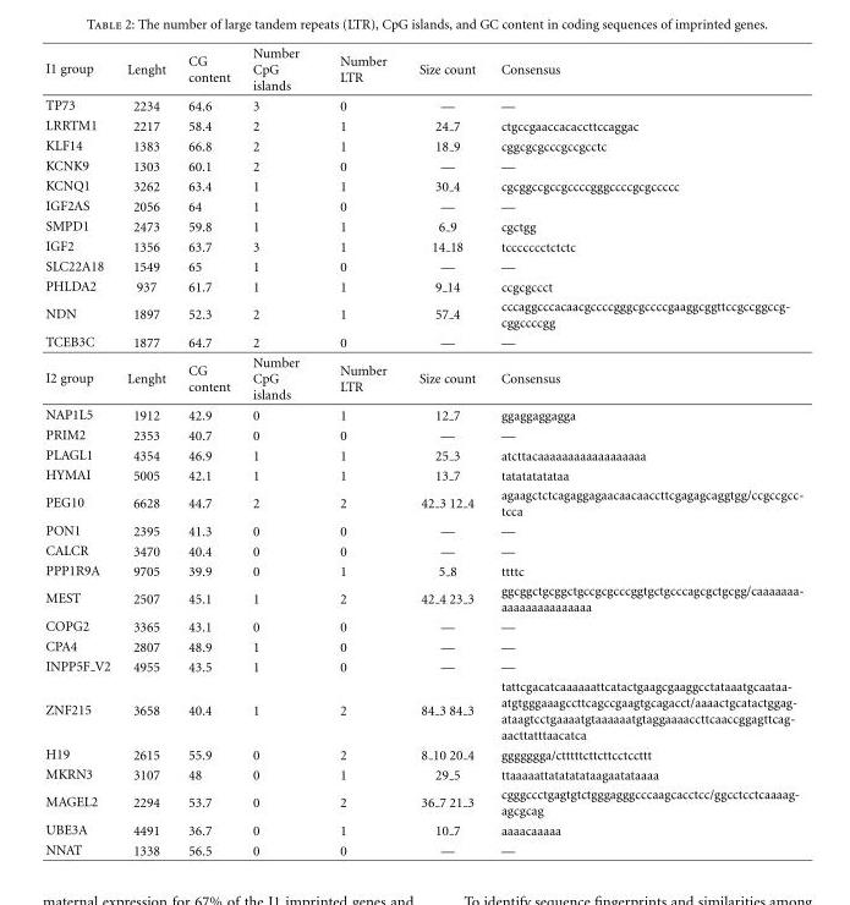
<table><thead><tr><td>I1 group</td><td>Lenght</td><td>CG content</td><td>Number CpG islands</td><td>Number LTR</td><td>Size count</td><td>Consensus</td></tr></thead><tbody><tr><td>TP73</td><td>2234</td><td>64.6</td><td>3</td><td>0</td><td>—</td><td>—</td></tr><tr><td>LRRTM1</td><td>2217</td><td>58.4</td><td>2</td><td>1</td><td>24 7</td><td>ctgccgaaccacaccttccaggac</td></tr><tr><td>KLF14</td><td>1383</td><td>66.8</td><td>2</td><td>1</td><td>18 9</td><td>cggcgcgcccgccgcctc</td></tr><tr><td>KCNK9</td><td>1303</td><td>60.1</td><td>2</td><td>0</td><td>—</td><td>—</td></tr><tr><td>KCNQ1</td><td>3262</td><td>63.4</td><td>1</td><td>1</td><td>30 4</td><td>cgcggccgccgccccgggccccgcgccccc</td></tr><tr><td>IGF2AS</td><td>2056</td><td>64</td><td>1</td><td>0</td><td>—</td><td>—</td></tr><tr><td>SMPD1</td><td>2473</td><td>59.8</td><td>1</td><td>1</td><td>6 9</td><td>cgctgg</td></tr><tr><td>IGF2</td><td>1356</td><td>63.7</td><td>3</td><td>1</td><td>14 18</td><td>tccccccctctctc</td></tr><tr><td>SLC22A18</td><td>1549</td><td>65</td><td>1</td><td>0</td><td>—</td><td>—</td></tr><tr><td>PHLDA2</td><td>937</td><td>61.7</td><td>1</td><td>1</td><td>9 14</td><td>ccgcgccct</td></tr><tr><td>NDN</td><td>1897</td><td>52.3</td><td>2</td><td>1</td><td>57 4</td><td>cccaggcccacaacgccccgggcgccccgaaggcggttccgccggccg- cggccccgg</td></tr><tr><td>TCEB3C</td><td>1877</td><td>64.7</td><td>2</td><td>0</td><td>—</td><td>—</td></tr><tr><td>I2 group</td><td>Lenght</td><td>CG content</td><td>Number CpG islands</td><td>Number LTR</td><td>Size count</td><td>Consensus</td></tr><tr><td>NAP1L5</td><td>1912</td><td>42.9</td><td>0</td><td>1</td><td>12 7</td><td>ggaggaggagga</td></tr><tr><td>PRIM2</td><td>2353</td><td>40.7</td><td>0</td><td>0</td><td>—</td><td>—</td></tr><tr><td>PLAGL1</td><td>4354</td><td>46.9</td><td>1</td><td>1</td><td>25 3</td><td>atcttacaaaaaaaaaaaaaaaaaa</td></tr><tr><td>HYMAI</td><td>5005</td><td>42.1</td><td>1</td><td>1</td><td>13 7</td><td>tatatatatataa</td></tr><tr><td>PEG10</td><td>6628</td><td>44.7</td><td>2</td><td>2</td><td>42 <sub>3 12</sub> 4</td><td>agaagctctcagaggagaacaacaaccttcgagagcaggtgg/ccgccgcc- tcca</td></tr><tr><td>PON1</td><td>2395</td><td>41.3</td><td>0</td><td>0</td><td>—</td><td>—</td></tr><tr><td>CALCR</td><td>3470</td><td>40.4</td><td>0</td><td>0</td><td>—</td><td>—</td></tr><tr><td>PPP1R9A</td><td>9705</td><td>39.9</td><td>0</td><td>1</td><td>5 8</td><td>ttttc</td></tr><tr><td>MEST</td><td>2507</td><td>45.1</td><td>1</td><td>2</td><td>42 <sub>4 23</sub> 3</td><td>ggcggctgcggctgccgcgcccggtgctgcccagcgctgcgg/caaaaaaa- aaaaaaaaaaaaaaa</td></tr><tr><td>COPG2</td><td>3365</td><td>43.1</td><td>0</td><td>0</td><td>—</td><td>—</td></tr><tr><td>CPA4</td><td>2807</td><td>48.9</td><td>1</td><td>0</td><td>—</td><td>—</td></tr><tr><td>INPP5F V2</td><td>4955</td><td>43.5</td><td>1</td><td>0</td><td>—</td><td>—</td></tr><tr><td>ZNF215</td><td>3658</td><td>40.4</td><td>1</td><td>2</td><td>84 <sub>3 84</sub> 3</td><td>tattcgacatcaaaaaattcatactgaagcgaaggcctataaatgcaataa- atgtgggaaagccttcagccgaagtgcagacct/aaaactgcatactggag- ataagtcctgaaaatgtaaaaaatgtaggaaaaccttcaaccggagttcag- aacttatttaacatca</td></tr><tr><td>H19</td><td>2615</td><td>55.9</td><td>0</td><td>2</td><td>8 <sub>10 20</sub> 4</td><td>ggggggga/ctttttcttcttcctccttt</td></tr><tr><td>MKRN3</td><td>3107</td><td>48</td><td>0</td><td>1</td><td>29 5</td><td>ttaaaaattatatatataagaatataaaa</td></tr><tr><td>MAGEL2</td><td>2294</td><td>53.7</td><td>0</td><td>2</td><td>36 <sub>7 21</sub> 3</td><td>cgggccctgagtgtctgggagggcccaagcacctcc/ggcctcctcaaaag- agcgcag</td></tr><tr><td>UBE3A</td><td>4491</td><td>36.7</td><td>0</td><td>1</td><td>10 7</td><td>aaaacaaaaa</td></tr><tr><td>NNAT</td><td>1338</td><td>56.5</td><td>0</td><td>0</td><td>—</td><td>—</td></tr></tbody></table>